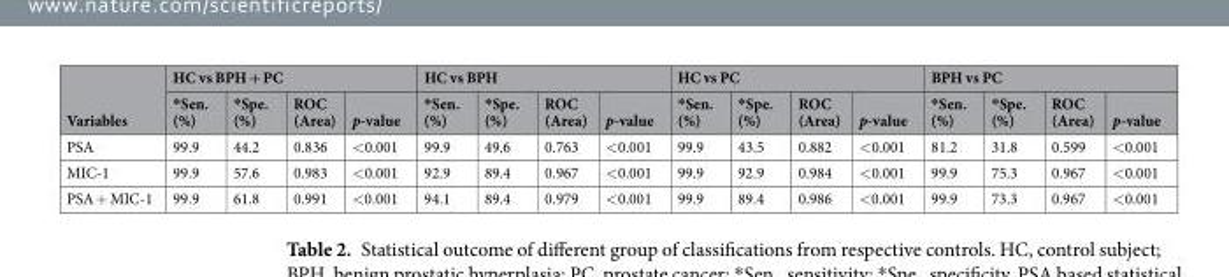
<table><thead><tr><td rowspan="2">Variables</td><td colspan="4">HC vs BPH + PC</td><td colspan="4">HC vs BPH</td><td colspan="4">HC vs PC</td><td colspan="4">BPH vs PC</td></tr><tr><td>*Sen. (%)</td><td>*Spe. (%)</td><td>ROC (Area)</td><td>p-value</td><td>*Sen. (%)</td><td>*Spe. (%)</td><td>ROC (Area)</td><td>p-value</td><td>*Sen. (%)</td><td>*Spe. (%)</td><td>ROC (Area)</td><td>p-value</td><td>*Sen. (%)</td><td>*Spe. (%)</td><td>ROC (Area)</td><td>p-value</td></tr></thead><tbody><tr><td>PSA</td><td>99.9</td><td>44.2</td><td>0.836</td><td>&lt;0.001</td><td>99.9</td><td>49.6</td><td>0.763</td><td>&lt;0.001</td><td>99.9</td><td>43.5</td><td>0.882</td><td>&lt;0.001</td><td>81.2</td><td>31.8</td><td>0.599</td><td>&lt;0.001</td></tr><tr><td>MIC-1</td><td>99.9</td><td>57.6</td><td>0.983</td><td>&lt;0.001</td><td>92.9</td><td>89.4</td><td>0.967</td><td>&lt;0.001</td><td>99.9</td><td>92.9</td><td>0.984</td><td>&lt;0.001</td><td>99.9</td><td>75.3</td><td>0.967</td><td>&lt;0.001</td></tr><tr><td>PSA + MIC-1</td><td>99.9</td><td>61.8</td><td>0.991</td><td>&lt;0.001</td><td>94.1</td><td>89.4</td><td>0.979</td><td>&lt;0.001</td><td>99.9</td><td>89.4</td><td>0.986</td><td>&lt;0.001</td><td>99.9</td><td>73.3</td><td>0.967</td><td>&lt;0.001</td></tr></tbody></table>